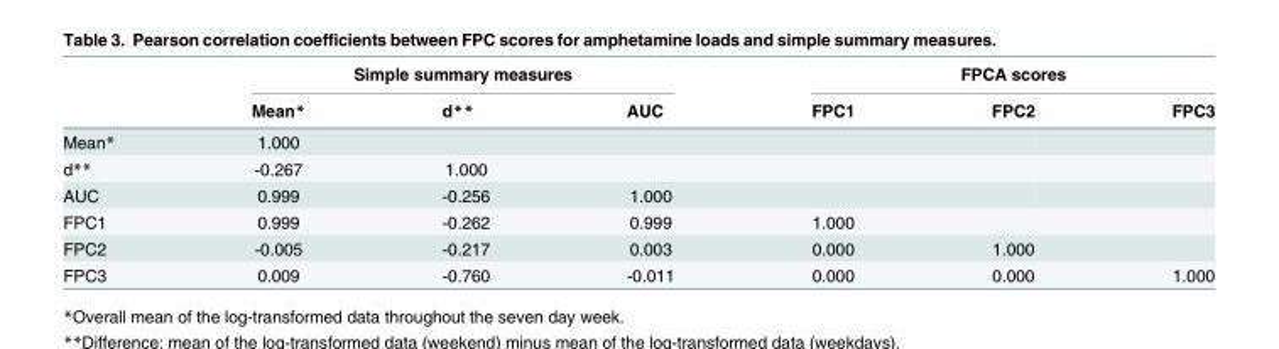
<table><thead><tr><td rowspan="2"></td><td colspan="3">Simple summary measures</td><td colspan="3">FPCA scores</td></tr><tr><td>Mean*</td><td>d**</td><td>AUC</td><td>FPC1</td><td>FPC2</td><td>FPC3</td></tr></thead><tbody><tr><td>Mean*</td><td>1.000</td><td></td><td></td><td></td><td></td><td></td></tr><tr><td>d**</td><td>-0.267</td><td>1.000</td><td></td><td></td><td></td><td></td></tr><tr><td>AUC</td><td>0.999</td><td>-0.256</td><td>1.000</td><td></td><td></td><td></td></tr><tr><td>FPC1</td><td>0.999</td><td>-0.262</td><td>0.999</td><td>1.000</td><td></td><td></td></tr><tr><td>FPC2</td><td>-0.005</td><td>-0.217</td><td>0.003</td><td>0.000</td><td>1.000</td><td></td></tr><tr><td>FPC3</td><td>0.009</td><td>-0.760</td><td>-0.011</td><td>0.000</td><td>0.000</td><td>1.000</td></tr></tbody></table>